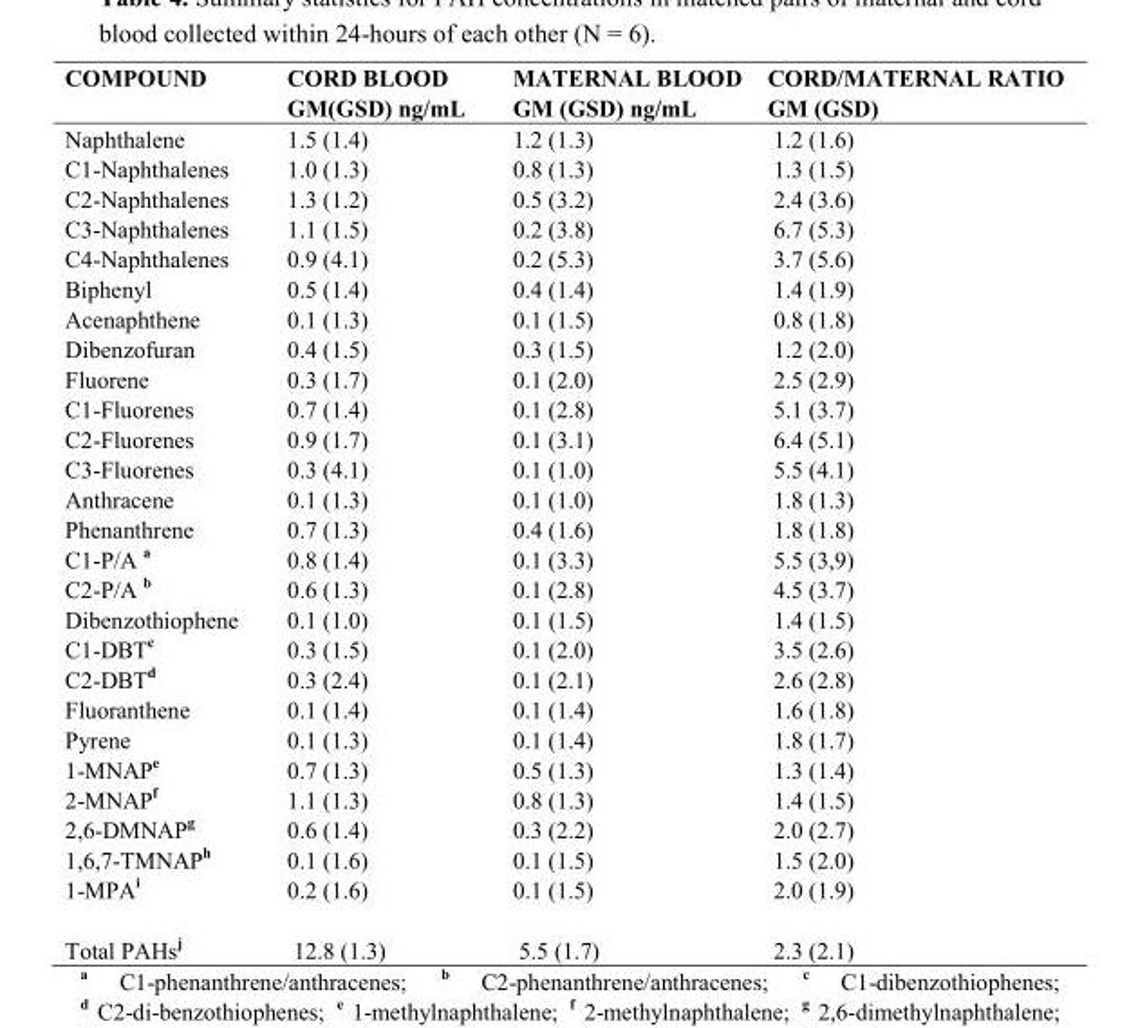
<table><thead><tr><td>COMPOUND</td><td>CORD BLOOD GM(GSD) ng/mL</td><td>MATERNAL BLOOD GM (GSD) ng/mL</td><td>CORD/MATERNAL RATIO GM (GSD)</td></tr></thead><tbody><tr><td>Naphthalene</td><td>1.5 (1.4)</td><td>1.2 (1.3)</td><td>1.2 (1.6)</td></tr><tr><td>C1-Naphthalenes</td><td>1.0 (1.3)</td><td>0.8 (1.3)</td><td>1.3 (1.5)</td></tr><tr><td>C2-Naphthalenes</td><td>1.3 (1.2)</td><td>0.5 (3.2)</td><td>2.4 (3.6)</td></tr><tr><td>C3-Naphthalenes</td><td>1.1 (1.5)</td><td>0.2 (3.8)</td><td>6.7 (5.3)</td></tr><tr><td>C4-Naphthalenes</td><td>0.9 (4.1)</td><td>0.2 (5.3)</td><td>3.7 (5.6)</td></tr><tr><td>Biphenyl</td><td>0.5 (1.4)</td><td>0.4 (1.4)</td><td>1.4 (1.9)</td></tr><tr><td>Acenaphthene</td><td>0.1 (1.3)</td><td>0.1 (1.5)</td><td>0.8 (1.8)</td></tr><tr><td>Dibenzofuran</td><td>0.4 (1.5)</td><td>0.3 (1.5)</td><td>1.2 (2.0)</td></tr><tr><td>Fluorene</td><td>0.3 (1.7)</td><td>0.1 (2.0)</td><td>2.5 (2.9)</td></tr><tr><td>C1-Fluorenes</td><td>0.7 (1.4)</td><td>0.1 (2.8)</td><td>5.1 (3.7)</td></tr><tr><td>C2-Fluorenes</td><td>0.9 (1.7)</td><td>0.1 (3.1)</td><td>6.4 (5.1)</td></tr><tr><td>C3-Fluorenes</td><td>0.3 (4.1)</td><td>0.1 (1.0)</td><td>5.5 (4.1)</td></tr><tr><td>Anthracene</td><td>0.1 (1.3)</td><td>0.1 (1.0)</td><td>1.8 (1.3)</td></tr><tr><td>Phenanthrene</td><td>0.7 (1.3)</td><td>0.4 (1.6)</td><td>1.8 (1.8)</td></tr><tr><td>C1-P/A <sup>a</sup></td><td>0.8 (1.4)</td><td>0.1 (3.3)</td><td>5.5 (3,9)</td></tr><tr><td>C2-P/A <sup>b</sup></td><td>0.6 (1.3)</td><td>0.1 (2.8)</td><td>4.5 (3.7)</td></tr><tr><td>Dibenzothiophene</td><td>0.1 (1.0)</td><td>0.1 (1.5)</td><td>1.4 (1.5)</td></tr><tr><td>C1-DBT<sup>c</sup></td><td>0.3 (1.5)</td><td>0.1 (2.0)</td><td>3.5 (2.6)</td></tr><tr><td>C2-DBT<sup>d</sup></td><td>0.3 (2.4)</td><td>0.1 (2.1)</td><td>2.6 (2.8)</td></tr><tr><td>Fluoranthene</td><td>0.1 (1.4)</td><td>0.1 (1.4)</td><td>1.6 (1.8)</td></tr><tr><td>Pyrene</td><td>0.1 (1.3)</td><td>0.1 (1.4)</td><td>1.8 (1.7)</td></tr><tr><td>1-MNAP<sup>e</sup></td><td>0.7 (1.3)</td><td>0.5 (1.3)</td><td>1.3 (1.4)</td></tr><tr><td>2-MNAP<sup>f</sup></td><td>1.1 (1.3)</td><td>0.8 (1.3)</td><td>1.4 (1.5)</td></tr><tr><td>2,6-DMNAP<sup>g</sup></td><td>0.6 (1.4)</td><td>0.3 (2.2)</td><td>2.0 (2.7)</td></tr><tr><td>1,6,7-TMNAP<sup>h</sup></td><td>0.1 (1.6)</td><td>0.1 (1.5)</td><td>1.5 (2.0)</td></tr><tr><td>1-MPA<sup>i</sup></td><td>0.2 (1.6)</td><td>0.1 (1.5)</td><td>2.0 (1.9)</td></tr><tr><td>Total PAHs<sup>j</sup></td><td>12.8 (1.3)</td><td>5.5 (1.7)</td><td>2.3 (2.1)</td></tr></tbody></table>